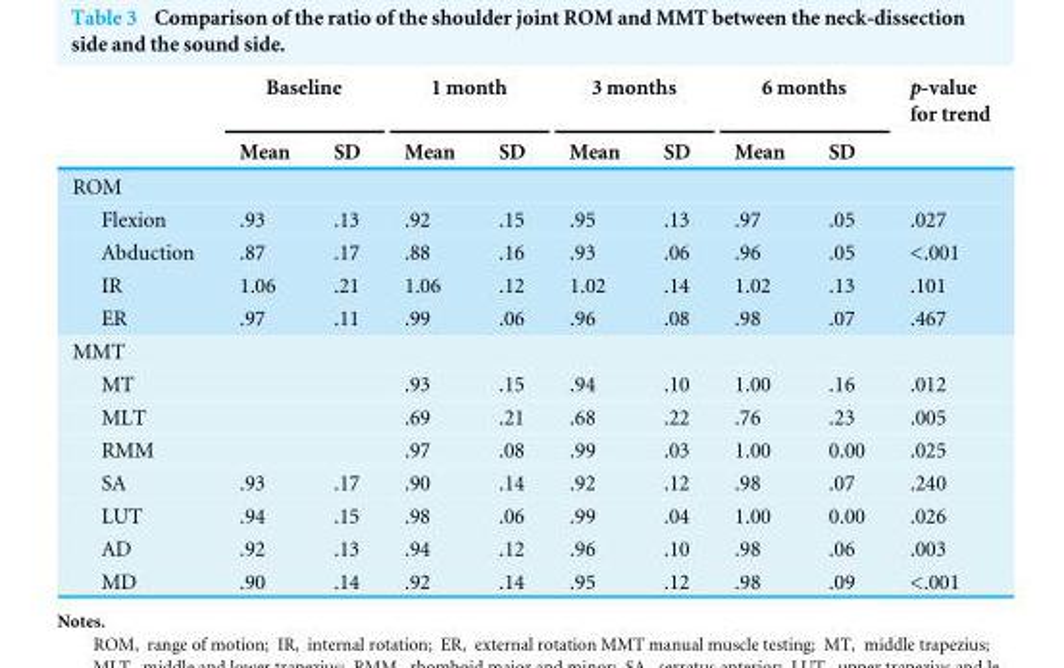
<table><thead><tr><td rowspan="2"></td><td colspan="2">Baseline</td><td colspan="2">1 month</td><td colspan="2">3 months</td><td colspan="2">6 months</td><td rowspan="2">p-value for trend</td></tr><tr><td>Mean</td><td>SD</td><td>Mean</td><td>SD</td><td>Mean</td><td>SD</td><td>Mean</td><td>SD</td></tr></thead><tbody><tr><td colspan="10">ROM</td></tr><tr><td>Flexion</td><td>.93</td><td>.13</td><td>.92</td><td>.15</td><td>.95</td><td>.13</td><td>.97</td><td>.05</td><td>.027</td></tr><tr><td>Abduction</td><td>.87</td><td>.17</td><td>.88</td><td>.16</td><td>.93</td><td>.06</td><td>.96</td><td>.05</td><td>&lt;.001</td></tr><tr><td>IR</td><td>1.06</td><td>.21</td><td>1.06</td><td>.12</td><td>1.02</td><td>.14</td><td>1.02</td><td>.13</td><td>.101</td></tr><tr><td>ER</td><td>.97</td><td>.11</td><td>.99</td><td>.06</td><td>.96</td><td>.08</td><td>.98</td><td>.07</td><td>.467</td></tr><tr><td colspan="10">MMT</td></tr><tr><td>MT</td><td></td><td></td><td>.93</td><td>.15</td><td>.94</td><td>.10</td><td>1.00</td><td>.16</td><td>.012</td></tr><tr><td>MLT</td><td></td><td></td><td>.69</td><td>.21</td><td>.68</td><td>.22</td><td>.76</td><td>.23</td><td>.005</td></tr><tr><td>RMM</td><td></td><td></td><td>.97</td><td>.08</td><td>.99</td><td>.03</td><td>1.00</td><td>0.00</td><td>.025</td></tr><tr><td>SA</td><td>.93</td><td>.17</td><td>.90</td><td>.14</td><td>.92</td><td>.12</td><td>.98</td><td>.07</td><td>.240</td></tr><tr><td>LUT</td><td>.94</td><td>.15</td><td>.98</td><td>.06</td><td>.99</td><td>.04</td><td>1.00</td><td>0.00</td><td>.026</td></tr><tr><td>AD</td><td>.92</td><td>.13</td><td>.94</td><td>.12</td><td>.96</td><td>.10</td><td>.98</td><td>.06</td><td>.003</td></tr><tr><td>MD</td><td>.90</td><td>.14</td><td>.92</td><td>.14</td><td>.95</td><td>.12</td><td>.98</td><td>.09</td><td>&lt;.001</td></tr></tbody></table>